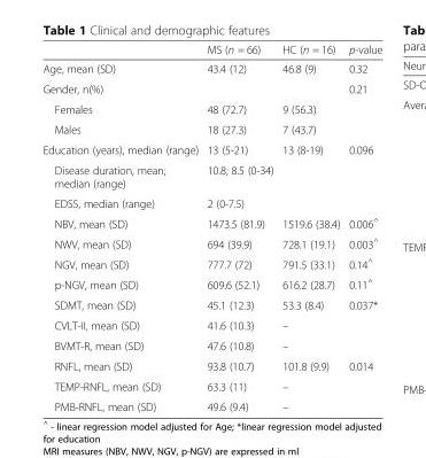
<table><thead><tr><td></td><td>MS (n = 66)</td><td>HC (n = 16)</td><td>p-value</td></tr></thead><tbody><tr><td>Age, mean (SD)</td><td>43.4 (12)</td><td>46.8 (9)</td><td>0.32</td></tr><tr><td>Gender, n(%)</td><td></td><td></td><td>0.21</td></tr><tr><td>Females</td><td>48 (72.7)</td><td>9 (56.3)</td><td></td></tr><tr><td>Males</td><td>18 (27.3)</td><td>7 (43.7)</td><td></td></tr><tr><td>Education (years), median (range)</td><td>13 (5-21)</td><td>13 (8-19)</td><td>0.096</td></tr><tr><td>Disease duration, mean; median (range)</td><td>10.8; 8.5 (0-34)</td><td></td><td></td></tr><tr><td>EDSS, median (range)</td><td>2 (0-7.5)</td><td></td><td></td></tr><tr><td>NBV, mean (SD)</td><td>1473.5 (81.9)</td><td>1519.6 (38.4)</td><td>0.006<sup>^</sup></td></tr><tr><td>NWV, mean (SD)</td><td>694 (39.9)</td><td>728.1 (19.1)</td><td>0.003<sup>^</sup></td></tr><tr><td>NGV, mean (SD)</td><td>777.7 (72)</td><td>791.5 (33.1)</td><td>0.14<sup>^</sup></td></tr><tr><td>p-NGV, mean (SD)</td><td>609.6 (52.1)</td><td>616.2 (28.7)</td><td>0.11<sup>^</sup></td></tr><tr><td>SDMT, mean (SD)</td><td>45.1 (12.3)</td><td>53.3 (8.4)</td><td>0.037*</td></tr><tr><td>CVLT-II, mean (SD)</td><td>41.6 (10.3)</td><td>–</td><td></td></tr><tr><td>BVMT-R, mean (SD)</td><td>47.6 (10.8)</td><td>–</td><td></td></tr><tr><td>RNFL, mean (SD)</td><td>93.8 (10.7)</td><td>101.8 (9.9)</td><td>0.014</td></tr><tr><td>TEMP-RNFL, mean (SD)</td><td>63.3 (11)</td><td>–</td><td></td></tr><tr><td>PMB-RNFL, mean (SD)</td><td>49.6 (9.4)</td><td>–</td><td></td></tr></tbody></table>